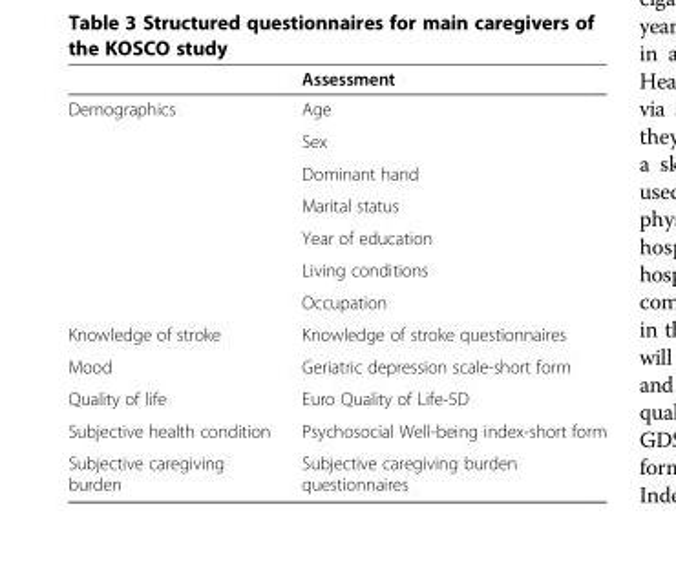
<table><thead><tr><td></td><td>Assessment</td></tr></thead><tbody><tr><td rowspan="7">Demographics</td><td>Age</td></tr><tr><td>Sex</td></tr><tr><td>Dominant hand</td></tr><tr><td>Marital status</td></tr><tr><td>Year of education</td></tr><tr><td>Living conditions</td></tr><tr><td>Occupation</td></tr><tr><td>Knowledge of stroke</td><td>Knowledge of stroke questionnaires</td></tr><tr><td>Mood</td><td>Geriatric depression scale-short form</td></tr><tr><td>Quality of life</td><td>Euro Quality of Life-5D</td></tr><tr><td>Subjective health condition</td><td>Psychosocial Well-being index-short form</td></tr><tr><td>Subjective caregiving burden</td><td>Subjective caregiving burden questionnaires</td></tr></tbody></table>